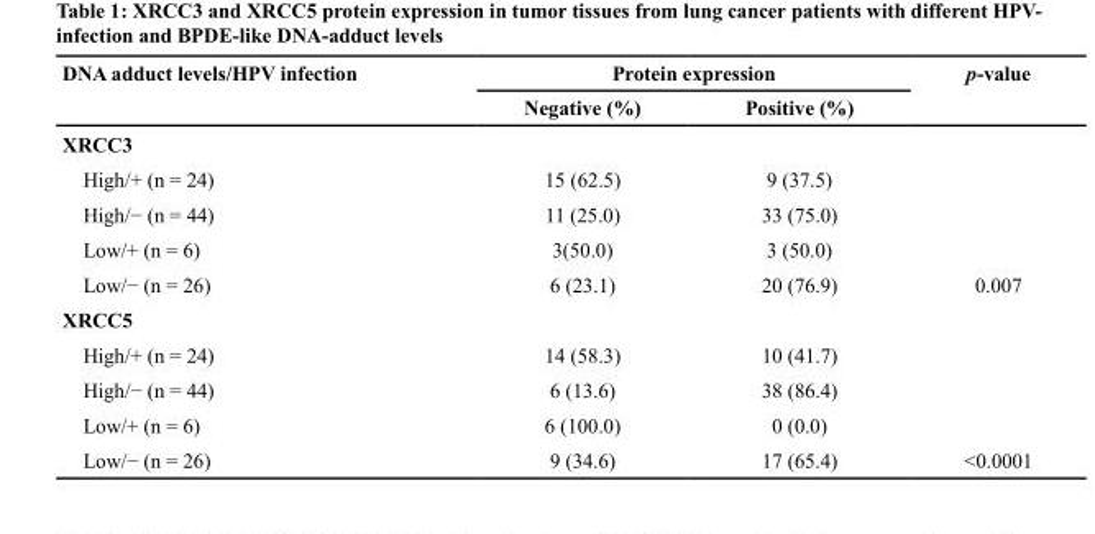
<table><thead><tr><td rowspan="2">DNA adduct levels/HPV infection</td><td colspan="2">Protein expression</td><td rowspan="2">p-value</td></tr><tr><td>Negative (%)</td><td>Positive (%)</td></tr></thead><tbody><tr><td colspan="4">XRCC3</td></tr><tr><td>High/+ (n = 24)</td><td>15 (62.5)</td><td>9 (37.5)</td><td></td></tr><tr><td>High/− (n = 44)</td><td>11 (25.0)</td><td>33 (75.0)</td><td></td></tr><tr><td>Low/+ (n = 6)</td><td>3(50.0)</td><td>3 (50.0)</td><td></td></tr><tr><td>Low/− (n = 26)</td><td>6 (23.1)</td><td>20 (76.9)</td><td>0.007</td></tr><tr><td colspan="4">XRCC5</td></tr><tr><td>High/+ (n = 24)</td><td>14 (58.3)</td><td>10 (41.7)</td><td></td></tr><tr><td>High/− (n = 44)</td><td>6 (13.6)</td><td>38 (86.4)</td><td></td></tr><tr><td>Low/+ (n = 6)</td><td>6 (100.0)</td><td>0 (0.0)</td><td></td></tr><tr><td>Low/− (n = 26)</td><td>9 (34.6)</td><td>17 (65.4)</td><td>&lt;0.0001</td></tr></tbody></table>